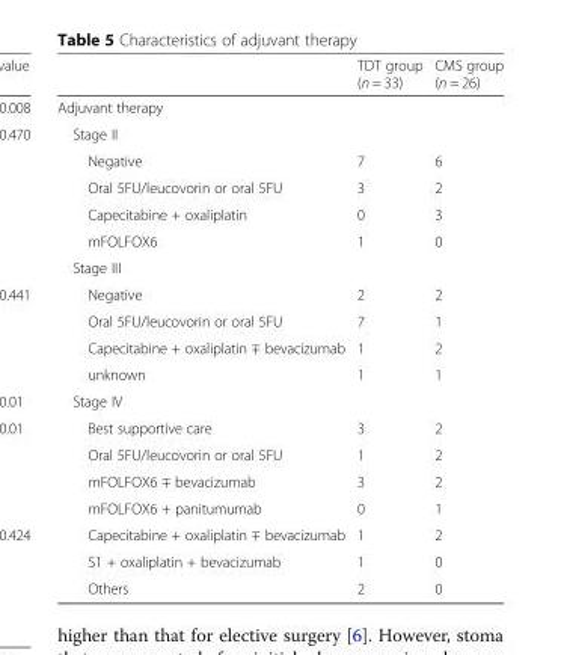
<table><thead><tr><td></td><td>TDT group (n = 33)</td><td>CMS group (n = 26)</td></tr></thead><tbody><tr><td colspan="3">Adjuvant therapy</td></tr><tr><td colspan="3">Stage II</td></tr><tr><td>Negative</td><td>7</td><td>6</td></tr><tr><td>Oral 5FU/leucovorin or oral 5FU</td><td>3</td><td>2</td></tr><tr><td>Capecitabine + oxaliplatin</td><td>0</td><td>3</td></tr><tr><td>mFOLFOX6</td><td>1</td><td>0</td></tr><tr><td colspan="3">Stage III</td></tr><tr><td>Negative</td><td>2</td><td>2</td></tr><tr><td>Oral 5FU/leucovorin or oral 5FU</td><td>7</td><td>1</td></tr><tr><td>Capecitabine + oxaliplatin ∓ bevacizumab</td><td>1</td><td>2</td></tr><tr><td>unknown</td><td>1</td><td>1</td></tr><tr><td colspan="3">Stage IV</td></tr><tr><td>Best supportive care</td><td>3</td><td>2</td></tr><tr><td>Oral 5FU/leucovorin or oral 5FU</td><td>1</td><td>2</td></tr><tr><td>mFOLFOX6 ∓ bevacizumab</td><td>3</td><td>2</td></tr><tr><td>mFOLFOX6 + panitumumab</td><td>0</td><td>1</td></tr><tr><td>Capecitabine + oxaliplatin ∓ bevacizumab</td><td>1</td><td>2</td></tr><tr><td>S1 + oxaliplatin + bevacizumab</td><td>1</td><td>0</td></tr><tr><td>Others</td><td>2</td><td>0</td></tr></tbody></table>